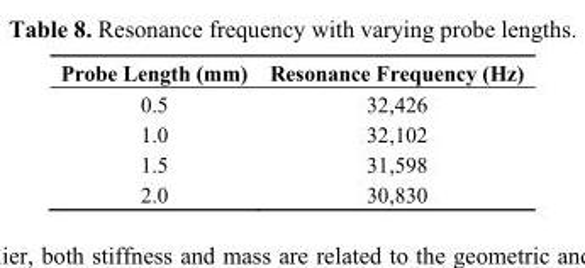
<table><thead><tr><td>Probe Length (mm)</td><td>Resonance Frequency (Hz)</td></tr></thead><tbody><tr><td>0.5</td><td>32,426</td></tr><tr><td>1.0</td><td>32,102</td></tr><tr><td>1.5</td><td>31,598</td></tr><tr><td>2.0</td><td>30,830</td></tr></tbody></table>